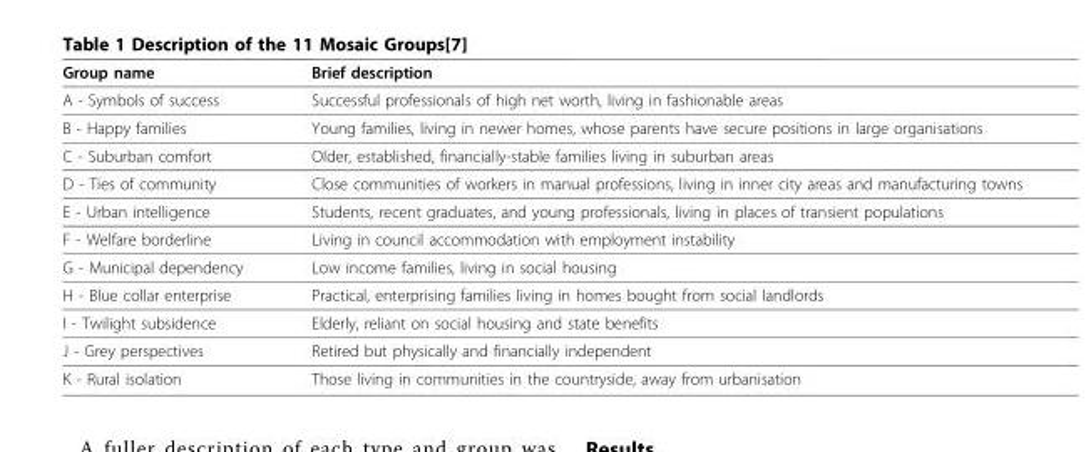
<table><thead><tr><td>Group name</td><td>Brief description</td></tr></thead><tbody><tr><td>A - Symbols of success</td><td>Successful professionals of high net worth, living in fashionable areas</td></tr><tr><td>B - Happy families</td><td>Young families, living in newer homes, whose parents have secure positions in large organisations</td></tr><tr><td>C - Suburban comfort</td><td>Older, established, financially-stable families living in suburban areas</td></tr><tr><td>D - Ties of community</td><td>Close communities of workers in manual professions, living in inner city areas and manufacturing towns</td></tr><tr><td>E - Urban intelligence</td><td>Students, recent graduates, and young professionals, living in places of transient populations</td></tr><tr><td>F - Welfare borderline</td><td>Living in council accommodation with employment instability</td></tr><tr><td>G - Municipal dependency</td><td>Low income families, living in social housing</td></tr><tr><td>H - Blue collar enterprise</td><td>Practical, enterprising families living in homes bought from social landlords</td></tr><tr><td>I - Twilight subsidence</td><td>Elderly, reliant on social housing and state benefits</td></tr><tr><td>J - Grey perspectives</td><td>Retired but physically and financially independent</td></tr><tr><td>K - Rural isolation</td><td>Those living in communities in the countryside, away from urbanisation</td></tr></tbody></table>